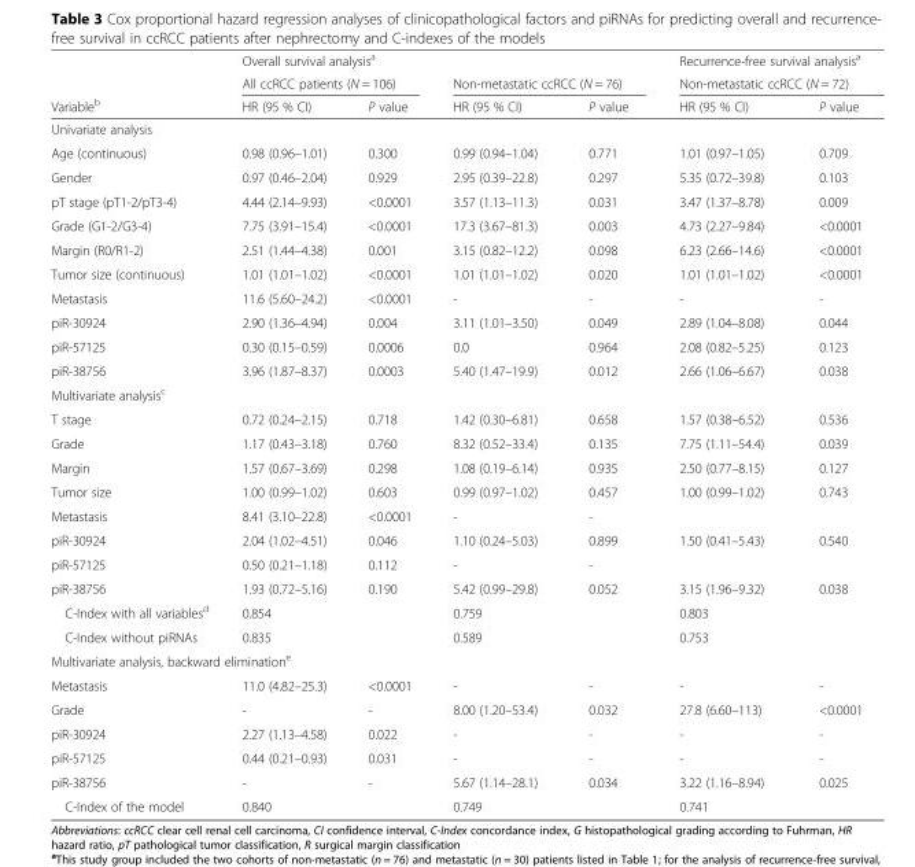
<table><thead><tr><td rowspan="3">Variable<sup>b</sup></td><td colspan="4">Overall survival analysis<sup>a</sup></td><td rowspan="2" colspan="2">Recurrence-free survival analysis<sup>a</sup> Non-metastatic ccRCC (N = 72)</td></tr><tr><td colspan="2">All ccRCC patients (N = 106)</td><td colspan="2">Non-metastatic ccRCC (N = 76)</td></tr><tr><td>HR (95 % CI)</td><td>P value</td><td>HR (95 % CI)</td><td>P value</td><td>HR (95 % CI)</td><td>P value</td></tr></thead><tbody><tr><td colspan="7">Univariate analysis</td></tr><tr><td>Age (continuous)</td><td>0.98 (0.96–1.01)</td><td>0.300</td><td>0.99 (0.94–1.04)</td><td>0.771</td><td>1.01 (0.97–1.05)</td><td>0.709</td></tr><tr><td>Gender</td><td>0.97 (0.46–2.04)</td><td>0.929</td><td>2.95 (0.39–22.8)</td><td>0.297</td><td>5.35 (0.72–39.8)</td><td>0.103</td></tr><tr><td>pT stage (pT1-2/pT3-4)</td><td>4.44 (2.14–9.93)</td><td>&lt;0.0001</td><td>3.57 (1.13–11.3)</td><td>0.031</td><td>3.47 (1.37–8.78)</td><td>0.009</td></tr><tr><td>Grade (G1-2/G3-4)</td><td>7.75 (3.91–15.4)</td><td>&lt;0.0001</td><td>17.3 (3.67–81.3)</td><td>0.003</td><td>4.73 (2.27–9.84)</td><td>&lt;0.0001</td></tr><tr><td>Margin (R0/R1-2)</td><td>2.51 (1.44–4.38)</td><td>0.001</td><td>3.15 (0.82–12.2)</td><td>0.098</td><td>6.23 (2.66–14.6)</td><td>&lt;0.0001</td></tr><tr><td>Tumor size (continuous)</td><td>1.01 (1.01–1.02)</td><td>&lt;0.0001</td><td>1.01 (1.01–1.02)</td><td>0.020</td><td>1.01 (1.01–1.02)</td><td>&lt;0.0001</td></tr><tr><td>Metastasis</td><td>11.6 (5.60–24.2)</td><td>&lt;0.0001</td><td>-</td><td>-</td><td>-</td><td>-</td></tr><tr><td>piR-30924</td><td>2.90 (1.36–4.94)</td><td>0.004</td><td>3.11 (1.01–3.50)</td><td>0.049</td><td>2.89 (1.04–8.08)</td><td>0.044</td></tr><tr><td>piR-57125</td><td>0.30 (0.15–0.59)</td><td>0.0006</td><td>0.0</td><td>0.964</td><td>2.08 (0.82–5.25)</td><td>0.123</td></tr><tr><td>piR-38756</td><td>3.96 (1.87–8.37)</td><td>0.0003</td><td>5.40 (1.47–19.9)</td><td>0.012</td><td>2.66 (1.06–6.67)</td><td>0.038</td></tr><tr><td colspan="7">Multivariate analysis<sup>c</sup></td></tr><tr><td>T stage</td><td>0.72 (0.24–2.15)</td><td>0.718</td><td>1.42 (0.30–6.81)</td><td>0.658</td><td>1.57 (0.38–6.52)</td><td>0.536</td></tr><tr><td>Grade</td><td>1.17 (0.43–3.18)</td><td>0.760</td><td>8.32 (0.52–33.4)</td><td>0.135</td><td>7.75 (1.11–54.4)</td><td>0.039</td></tr><tr><td>Margin</td><td>1.57 (0.67–3.69)</td><td>0.298</td><td>1.08 (0.19–6.14)</td><td>0.935</td><td>2.50 (0.77–8.15)</td><td>0.127</td></tr><tr><td>Tumor size</td><td>1.00 (0.99–1.02)</td><td>0.603</td><td>0.99 (0.97–1.02)</td><td>0.457</td><td>1.00 (0.99–1.02)</td><td>0.743</td></tr><tr><td>Metastasis</td><td>8.41 (3.10–22.8)</td><td>&lt;0.0001</td><td>-</td><td>-</td><td></td><td></td></tr><tr><td>piR-30924</td><td>2.04 (1.02–4.51)</td><td>0.046</td><td>1.10 (0.24–5.03)</td><td>0.899</td><td>1.50 (0.41–5.43)</td><td>0.540</td></tr><tr><td>piR-57125</td><td>0.50 (0.21–1.18)</td><td>0.112</td><td>-</td><td>-</td><td></td><td></td></tr><tr><td>piR-38756</td><td>1.93 (0.72–5.16)</td><td>0.190</td><td>5.42 (0.99–29.8)</td><td>0.052</td><td>3.15 (1.96–9.32)</td><td>0.038</td></tr><tr><td>C-Index with all variables<sup>d</sup></td><td>0.854</td><td></td><td>0.759</td><td></td><td>0.803</td><td></td></tr><tr><td>C-Index without piRNAs</td><td>0.835</td><td></td><td>0.589</td><td></td><td>0.753</td><td></td></tr><tr><td colspan="7">Multivariate analysis, backward elimination<sup>e</sup></td></tr><tr><td>Metastasis</td><td>11.0 (4.82–25.3)</td><td>&lt;0.0001</td><td>-</td><td>-</td><td>-</td><td>-</td></tr><tr><td>Grade</td><td>-</td><td>-</td><td>8.00 (1.20–53.4)</td><td>0.032</td><td>27.8 (6.60–113)</td><td>&lt;0.0001</td></tr><tr><td>piR-30924</td><td>2.27 (1.13–4.58)</td><td>0.022</td><td>-</td><td>-</td><td>-</td><td>-</td></tr><tr><td>piR-57125</td><td>0.44 (0.21–0.93)</td><td>0.031</td><td>-</td><td>-</td><td>-</td><td>-</td></tr><tr><td>piR-38756</td><td>-</td><td>-</td><td>5.67 (1.14–28.1)</td><td>0.034</td><td>3.22 (1.16–8.94)</td><td>0.025</td></tr><tr><td>C-Index of the model</td><td>0.840</td><td></td><td>0.749</td><td></td><td>0.741</td><td></td></tr></tbody></table>